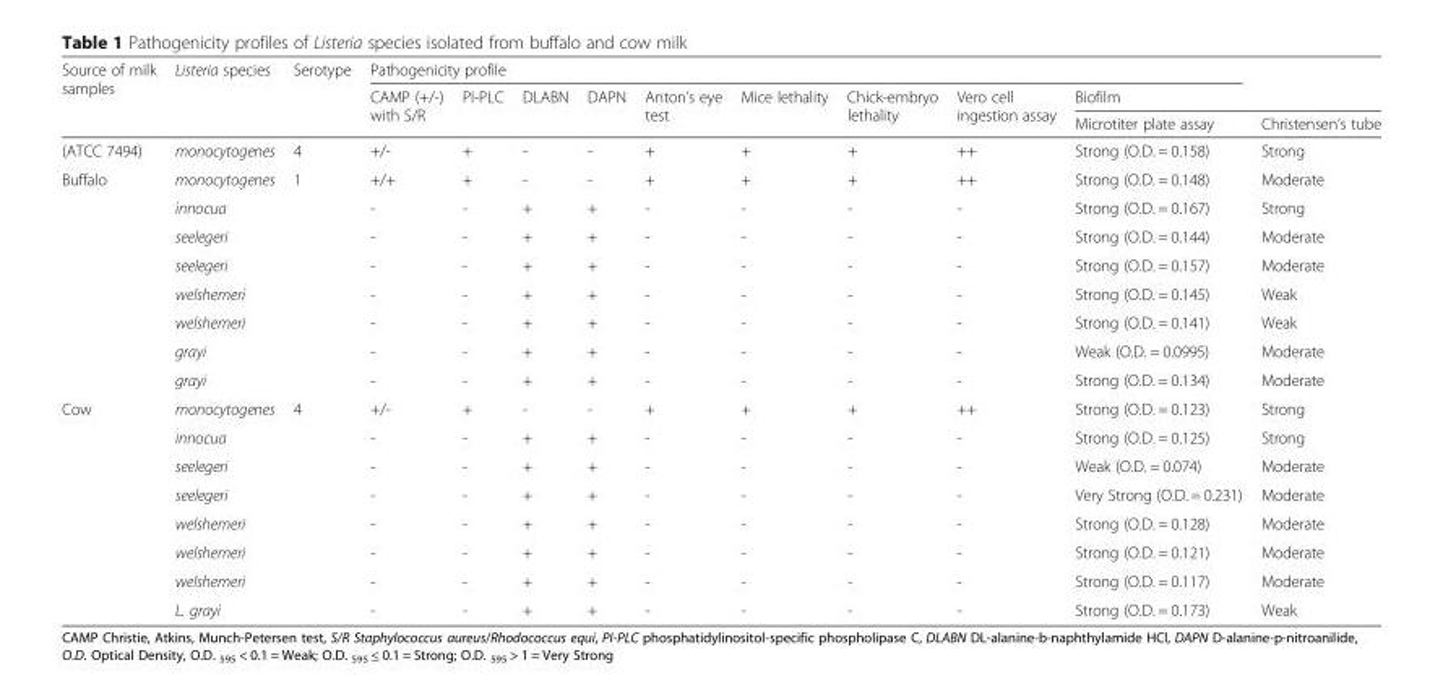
<table><thead><tr><td rowspan="3">Source of milk samples</td><td rowspan="3">Listeria species</td><td rowspan="3">Serotype</td><td colspan="9">Pathogenicity profile</td><td></td></tr><tr><td rowspan="2">CAMP (+/-) with S/R</td><td rowspan="2">PI-PLC</td><td rowspan="2">DLABN</td><td rowspan="2">DAPN</td><td rowspan="2">Anton’s eye test</td><td rowspan="2">Mice lethality</td><td rowspan="2">Chick-embryo lethality</td><td rowspan="2">Vero cell ingestion assay</td><td colspan="2">Biofilm</td></tr><tr><td>Microtiter plate assay</td><td>Christensen’s tube</td></tr></thead><tbody><tr><td>(ATCC 7494)</td><td>monocytogenes</td><td>4</td><td>+/-</td><td>+</td><td>-</td><td>-</td><td>+</td><td>+</td><td>+</td><td>++</td><td>Strong (O.D. = 0.158)</td><td>Strong</td></tr><tr><td rowspan="8">Buffalo</td><td>monocytogenes</td><td>1</td><td>+/+</td><td>+</td><td>-</td><td>-</td><td>+</td><td>+</td><td>+</td><td>++</td><td>Strong (O.D. = 0.148)</td><td>Moderate</td></tr><tr><td>innocua</td><td></td><td>-</td><td>-</td><td>+</td><td>+</td><td>-</td><td>-</td><td>-</td><td>-</td><td>Strong (O.D. = 0.167)</td><td>Strong</td></tr><tr><td>seelegeri</td><td></td><td>-</td><td>-</td><td>+</td><td>+</td><td>-</td><td>-</td><td>-</td><td>-</td><td>Strong (O.D. = 0.144)</td><td>Moderate</td></tr><tr><td>seelegeri</td><td></td><td>-</td><td>-</td><td>+</td><td>+</td><td>-</td><td>-</td><td>-</td><td>-</td><td>Strong (O.D. = 0.157)</td><td>Moderate</td></tr><tr><td>welshemeri</td><td></td><td>-</td><td>-</td><td>+</td><td>+</td><td>-</td><td>-</td><td>-</td><td>-</td><td>Strong (O.D. = 0.145)</td><td>Weak</td></tr><tr><td>welshemeri</td><td></td><td>-</td><td>-</td><td>+</td><td>+</td><td>-</td><td>-</td><td>-</td><td>-</td><td>Strong (O.D. = 0.141)</td><td>Weak</td></tr><tr><td>grayi</td><td></td><td>-</td><td>-</td><td>+</td><td>+</td><td>-</td><td>-</td><td>-</td><td>-</td><td>Weak (O.D. = 0.0995)</td><td>Moderate</td></tr><tr><td>grayi</td><td></td><td>-</td><td>-</td><td>+</td><td>+</td><td>-</td><td>-</td><td>-</td><td>-</td><td>Strong (O.D. = 0.134)</td><td>Moderate</td></tr><tr><td rowspan="8">Cow</td><td>monocytogenes</td><td>4</td><td>+/-</td><td>+</td><td>-</td><td>-</td><td>+</td><td>+</td><td>+</td><td>++</td><td>Strong (O.D. = 0.123)</td><td>Strong</td></tr><tr><td>innocua</td><td></td><td>-</td><td>-</td><td>+</td><td>+</td><td>-</td><td>-</td><td>-</td><td>-</td><td>Strong (O.D. = 0.125)</td><td>Strong</td></tr><tr><td>seelegeri</td><td></td><td>-</td><td>-</td><td>+</td><td>+</td><td>-</td><td>-</td><td>-</td><td>-</td><td>Weak (O.D. = 0.074)</td><td>Moderate</td></tr><tr><td>seelegeri</td><td></td><td>-</td><td>-</td><td>+</td><td>+</td><td>-</td><td>-</td><td>-</td><td>-</td><td>Very Strong (O.D. = 0.231)</td><td>Moderate</td></tr><tr><td>welshemeri</td><td></td><td>-</td><td>-</td><td>+</td><td>+</td><td>-</td><td>-</td><td>-</td><td>-</td><td>Strong (O.D. = 0.128)</td><td>Moderate</td></tr><tr><td>welshemeri</td><td></td><td>-</td><td>-</td><td>+</td><td>+</td><td>-</td><td>-</td><td>-</td><td>-</td><td>Strong (O.D. = 0.121)</td><td>Moderate</td></tr><tr><td>welshemeri</td><td></td><td>-</td><td>-</td><td>+</td><td>+</td><td>-</td><td>-</td><td>-</td><td>-</td><td>Strong (O.D. = 0.117)</td><td>Moderate</td></tr><tr><td>L. grayi</td><td></td><td>-</td><td>-</td><td>+</td><td>+</td><td>-</td><td>-</td><td>-</td><td>-</td><td>Strong (O.D. = 0.173)</td><td>Weak</td></tr></tbody></table>